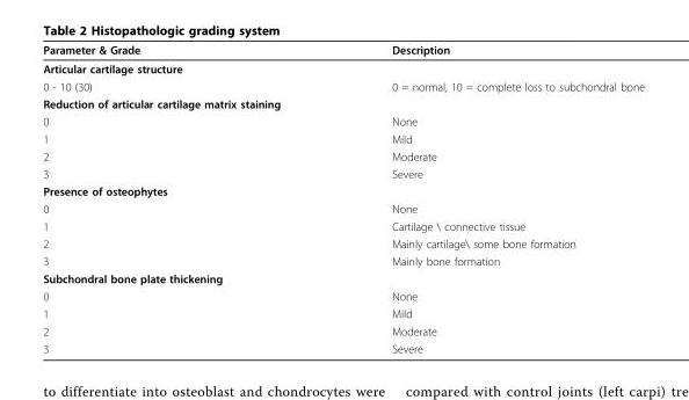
<table><thead><tr><td>Parameter &amp; Grade</td><td>Description</td></tr></thead><tbody><tr><td colspan="2">Articular cartilage structure</td></tr><tr><td>0 - 10 (30)</td><td>0 = normal, 10 = complete loss to subchondral bone</td></tr><tr><td colspan="2">Reduction of articular cartilage matrix staining</td></tr><tr><td>0</td><td>None</td></tr><tr><td>1</td><td>Mild</td></tr><tr><td>2</td><td>Moderate</td></tr><tr><td>3</td><td>Severe</td></tr><tr><td colspan="2">Presence of osteophytes</td></tr><tr><td>0</td><td>None</td></tr><tr><td>1</td><td>Cartilage \ connective tissue</td></tr><tr><td>2</td><td>Mainly cartilage\ some bone formation</td></tr><tr><td>3</td><td>Mainly bone formation</td></tr><tr><td colspan="2">Subchondral bone plate thickening</td></tr><tr><td>0</td><td>None</td></tr><tr><td>1</td><td>Mild</td></tr><tr><td>2</td><td>Moderate</td></tr><tr><td>3</td><td>Severe</td></tr></tbody></table>